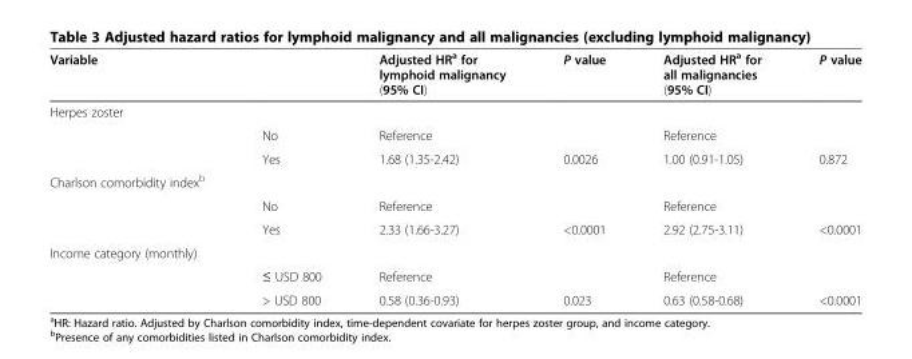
<table><thead><tr><td>Variable</td><td></td><td>Adjusted HR<sup>a</sup> for lymphoid malignancy (95% CI)</td><td>P value</td><td>Adjusted HR<sup>a</sup> for all malignancies (95% CI)</td><td>P value</td></tr></thead><tbody><tr><td colspan="6">Herpes zoster</td></tr><tr><td></td><td>No</td><td>Reference</td><td></td><td>Reference</td><td></td></tr><tr><td></td><td>Yes</td><td>1.68 (1.35-2.42)</td><td>0.0026</td><td>1.00 (0.91-1.05)</td><td>0.872</td></tr><tr><td colspan="6">Charlson comorbidity index<sup>b</sup></td></tr><tr><td></td><td>No</td><td>Reference</td><td></td><td>Reference</td><td></td></tr><tr><td></td><td>Yes</td><td>2.33 (1.66-3.27)</td><td>&lt;0.0001</td><td>2.92 (2.75-3.11)</td><td>&lt;0.0001</td></tr><tr><td colspan="6">Income category (monthly)</td></tr><tr><td></td><td>≤ USD 800</td><td>Reference</td><td></td><td>Reference</td><td></td></tr><tr><td></td><td>&gt; USD 800</td><td>0.58 (0.36-0.93)</td><td>0.023</td><td>0.63 (0.58-0.68)</td><td>&lt;0.0001</td></tr></tbody></table>